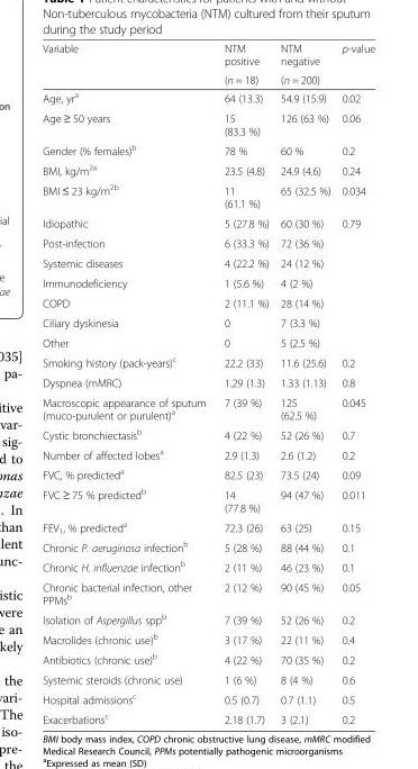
<table><thead><tr><td rowspan="2">Variable</td><td rowspan="2">NTM positive (n = 18)</td><td rowspan="2">NTM negative (n = 200)</td><td rowspan="2">p-value</td></tr><tr></tr></thead><tbody><tr><td>Age, yr<sup>a</sup></td><td>64 (13.3)</td><td>54.9 (15.9)</td><td>0.02</td></tr><tr><td>Age ≥ 50 years</td><td>15 (83.3 %)</td><td>126 (63 %)</td><td>0.06</td></tr><tr><td>Gender (% females)<sup>b</sup></td><td>78 %</td><td>60 %</td><td>0.2</td></tr><tr><td>BMI, kg/m<sup>2a</sup></td><td>23.5 (4.8)</td><td>24.9 (4.6)</td><td>0.24</td></tr><tr><td>BMI ≤ 23 kg/m<sup>2b</sup></td><td>11 (61.1 %)</td><td>65 (32.5 %)</td><td>0.034</td></tr><tr><td>Idiopathic</td><td>5 (27.8 %)</td><td>60 (30 %)</td><td rowspan="7">0.79</td></tr><tr><td>Post-infection</td><td>6 (33.3 %)</td><td>72 (36 %)</td></tr><tr><td>Systemic diseases</td><td>4 (22.2 %)</td><td>24 (12 %)</td></tr><tr><td>Immunodeficiency</td><td>1 (5.6 %)</td><td>4 (2 %)</td></tr><tr><td>COPD</td><td>2 (11.1 %)</td><td>28 (14 %)</td></tr><tr><td>Ciliary dyskinesia</td><td>0</td><td>7 (3.3 %)</td></tr><tr><td>Other</td><td>0</td><td>5 (2.5 %)</td></tr><tr><td>Smoking history (pack-years)<sup>c</sup></td><td>22.2 (33)</td><td>11.6 (25.6)</td><td>0.2</td></tr><tr><td>Dyspnea (mMRC)</td><td>1.29 (1.3)</td><td>1.33 (1.13)</td><td>0.8</td></tr><tr><td>Macroscopic appearance of sputum (muco-purulent or purulent)<sup>a</sup></td><td>7 (39 %)</td><td>125 (62.5 %)</td><td>0.045</td></tr><tr><td>Cystic bronchiectasis<sup>b</sup></td><td>4 (22 %)</td><td>52 (26 %)</td><td>0.7</td></tr><tr><td>Number of affected lobes<sup>a</sup></td><td>2.9 (1.3)</td><td>2.6 (1.2)</td><td>0.2</td></tr><tr><td>FVC, % predicted<sup>a</sup></td><td>82.5 (23)</td><td>73.5 (24)</td><td>0.09</td></tr><tr><td>FVC ≥ 75 % predicted<sup>b</sup></td><td>14 (77.8 %)</td><td>94 (47 %)</td><td>0.011</td></tr><tr><td>FEV<sub>1</sub>, % predicted<sup>a</sup></td><td>72.3 (26)</td><td>63 (25)</td><td>0.15</td></tr><tr><td>Chronic P. aeruginosa infection<sup>b</sup></td><td>5 (28 %)</td><td>88 (44 %)</td><td>0.1</td></tr><tr><td>Chronic H. influenzae infection<sup>b</sup></td><td>2 (11 %)</td><td>46 (23 %)</td><td>0.1</td></tr><tr><td>Chronic bacterial infection, other PPMs<sup>b</sup></td><td>2 (12 %)</td><td>90 (45 %)</td><td>0.05</td></tr><tr><td>Isolation of Aspergillus spp<sup>b</sup></td><td>7 (39 %)</td><td>52 (26 %)</td><td>0.2</td></tr><tr><td>Macrolides (chronic use)<sup>b</sup></td><td>3 (17 %)</td><td>22 (11 %)</td><td>0.4</td></tr><tr><td>Antibiotics (chronic use)<sup>b</sup></td><td>4 (22 %)</td><td>70 (35 %)</td><td>0.2</td></tr><tr><td>Systemic steroids (chronic use)</td><td>1 (6 %)</td><td>8 (4 %)</td><td>0.6</td></tr><tr><td>Hospital admissions<sup>c</sup></td><td>0.5 (0.7)</td><td>0.7 (1.1)</td><td>0.5</td></tr><tr><td>Exacerbations<sup>c</sup></td><td>2.18 (1.7)</td><td>3 (2.1)</td><td>0.2</td></tr></tbody></table>